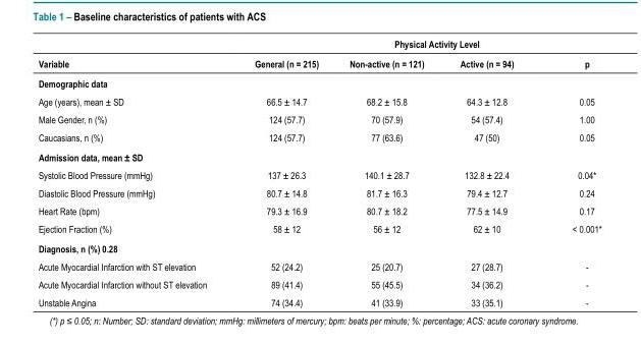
<table><thead><tr><td rowspan="2">Variable</td><td colspan="4">Physical Activity Level</td></tr><tr><td>General (n = 215)</td><td>Non-active (n = 121)</td><td>Active (n = 94)</td><td>p</td></tr></thead><tbody><tr><td colspan="5">Demographic data</td></tr><tr><td>Age (years), mean ± SD</td><td>66.5 ± 14.7</td><td>68.2 ± 15.8</td><td>64.3 ± 12.8</td><td>0.05</td></tr><tr><td>Male Gender, n (%)</td><td>124 (57.7)</td><td>70 (57.9)</td><td>54 (57.4)</td><td>1.00</td></tr><tr><td>Caucasians, n (%)</td><td>124 (57.7)</td><td>77 (63.6)</td><td>47 (50)</td><td>0.05</td></tr><tr><td colspan="5">Admission data, mean ± SD</td></tr><tr><td>Systolic Blood Pressure (mmHg)</td><td>137 ± 26.3</td><td>140.1 ± 28.7</td><td>132.8 ± 22.4</td><td>0.04*</td></tr><tr><td>Diastolic Blood Pressure (mmHg)</td><td>80.7 ± 14.8</td><td>81.7 ± 16.3</td><td>79.4 ± 12.7</td><td>0.24</td></tr><tr><td>Heart Rate (bpm)</td><td>79.3 ± 16.9</td><td>80.7 ± 18.2</td><td>77.5 ± 14.9</td><td>0.17</td></tr><tr><td>Ejection Fraction (%)</td><td>58 ± 12</td><td>56 ± 12</td><td>62 ± 10</td><td>&lt; 0.001*</td></tr><tr><td colspan="5">Diagnosis, n (%) 0.28</td></tr><tr><td>Acute Myocardial Infarction with ST elevation</td><td>52 (24.2)</td><td>25 (20.7)</td><td>27 (28.7)</td><td>-</td></tr><tr><td>Acute Myocardial Infarction without ST elevation</td><td>89 (41.4)</td><td>55 (45.5)</td><td>34 (36.2)</td><td>-</td></tr><tr><td>Unstable Angina</td><td>74 (34.4)</td><td>41 (33.9)</td><td>33 (35.1)</td><td>-</td></tr></tbody></table>